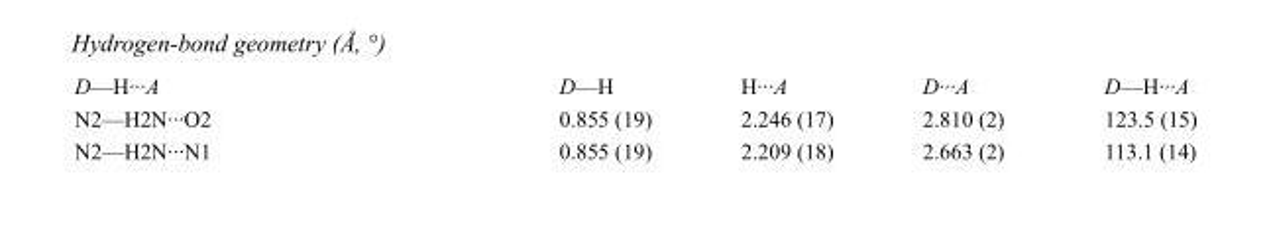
<table><tbody><tr><td>D—H···A</td><td>D—H</td><td>H···A</td><td>D···A</td><td>D—H···A</td></tr><tr><td>N2—H2N···O2</td><td>0.855 (19)</td><td>2.246 (17)</td><td>2.810 (2)</td><td>123.5 (15)</td></tr><tr><td>N2—H2N···N1</td><td>0.855 (19)</td><td>2.209 (18)</td><td>2.663 (2)</td><td>113.1 (14)</td></tr></tbody></table>